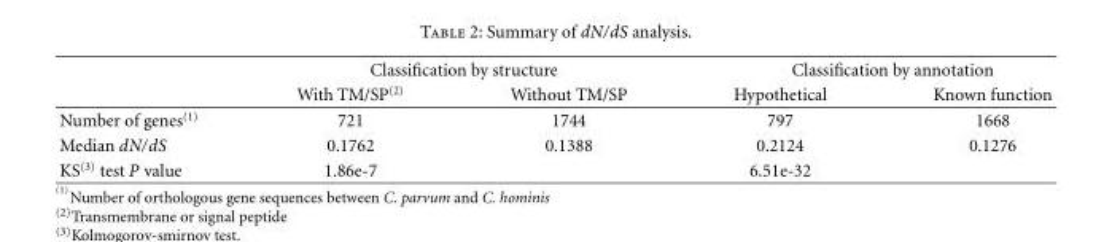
<table><thead><tr><td rowspan="2"></td><td colspan="2">Classification by structure</td><td colspan="2">Classification by annotation</td></tr><tr><td>With TM/SP<sup>(2)</sup></td><td>Without TM/SP</td><td>Hypothetical</td><td>Known function</td></tr></thead><tbody><tr><td>Number of genes<sup>(1)</sup></td><td>721</td><td>1744</td><td>797</td><td>1668</td></tr><tr><td>Median dN/dS</td><td>0.1762</td><td>0.1388</td><td>0.2124</td><td>0.1276</td></tr><tr><td>KS<sup>(3)</sup> test P value</td><td>1.86e-7</td><td></td><td>6.51e-32</td><td></td></tr></tbody></table>